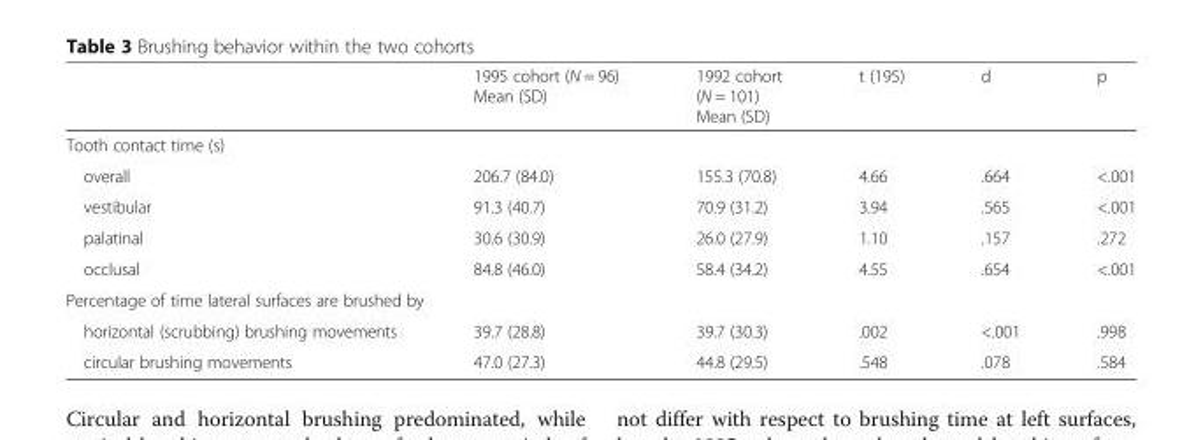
<table><thead><tr><td></td><td>1995 cohort (N = 96) Mean (SD)</td><td>1992 cohort (N = 101) Mean (SD)</td><td>t (195)</td><td>d</td><td>p</td></tr></thead><tbody><tr><td colspan="6">Tooth contact time (s)</td></tr><tr><td>overall</td><td>206.7 (84.0)</td><td>155.3 (70.8)</td><td>4.66</td><td>.664</td><td>&lt;.001</td></tr><tr><td>vestibular</td><td>91.3 (40.7)</td><td>70.9 (31.2)</td><td>3.94</td><td>.565</td><td>&lt;.001</td></tr><tr><td>palatinal</td><td>30.6 (30.9)</td><td>26.0 (27.9)</td><td>1.10</td><td>.157</td><td>.272</td></tr><tr><td>occlusal</td><td>84.8 (46.0)</td><td>58.4 (34.2)</td><td>4.55</td><td>.654</td><td>&lt;.001</td></tr><tr><td colspan="6">Percentage of time lateral surfaces are brushed by</td></tr><tr><td>horizontal (scrubbing) brushing movements</td><td>39.7 (28.8)</td><td>39.7 (30.3)</td><td>.002</td><td>&lt;.001</td><td>.998</td></tr><tr><td>circular brushing movements</td><td>47.0 (27.3)</td><td>44.8 (29.5)</td><td>.548</td><td>.078</td><td>.584</td></tr></tbody></table>